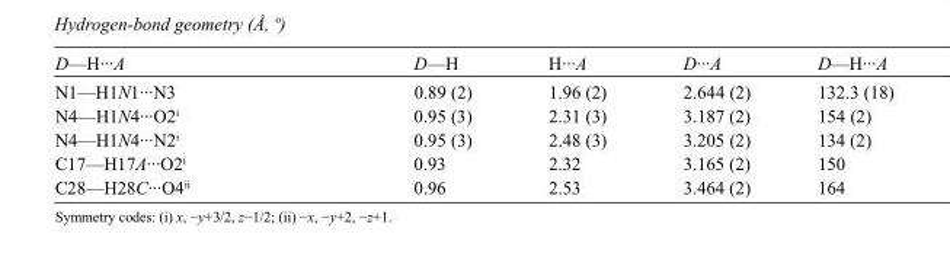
<table><tbody><tr><td>D—H···A</td><td>D—H</td><td>H···A</td><td>D···A</td><td>D—H···A</td></tr><tr><td>N1—H1N1···N3</td><td>0.89 (2)</td><td>1.96 (2)</td><td>2.644 (2)</td><td>132.3 (18)</td></tr><tr><td>N4—H1N4···O2<sup>i</sup></td><td>0.95 (3)</td><td>2.31 (3)</td><td>3.187 (2)</td><td>154 (2)</td></tr><tr><td>N4—H1N4···N2<sup>i</sup></td><td>0.95 (3)</td><td>2.48 (3)</td><td>3.205 (2)</td><td>134 (2)</td></tr><tr><td>C17—H17A···O2<sup>i</sup></td><td>0.93</td><td>2.32</td><td>3.165 (2)</td><td>150</td></tr><tr><td>C28—H28C···O4<sup>ii</sup></td><td>0.96</td><td>2.53</td><td>3.464 (2)</td><td>164</td></tr></tbody></table>